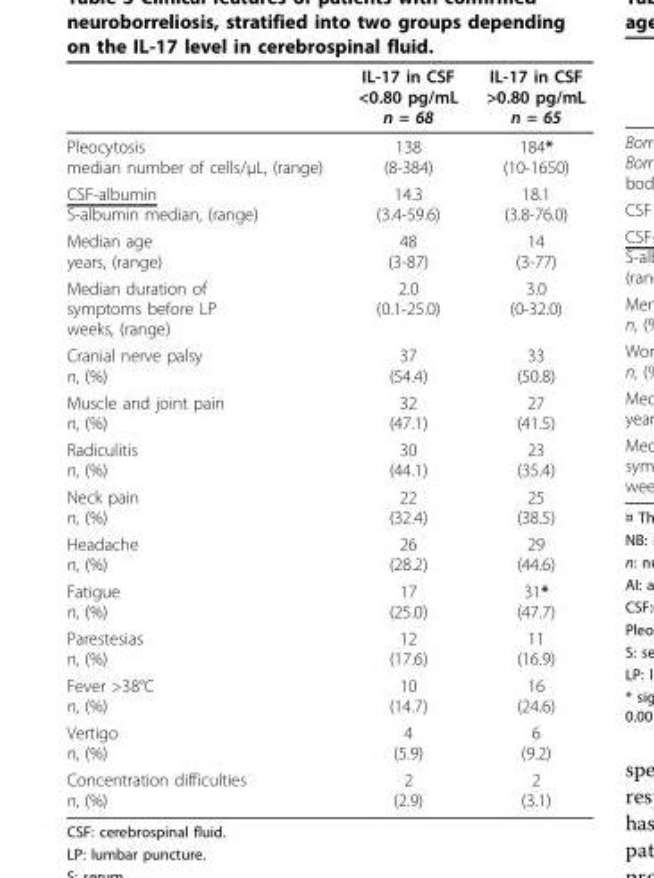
<table><thead><tr><td></td><td>IL-17 in CSF &lt;0.80 pg/mL n = 68</td><td>IL-17 in CSF &gt;0.80 pg/mL n = 65</td></tr></thead><tbody><tr><td>Pleocytosis median number of cells/μL, (range)</td><td>138 (8-384)</td><td>184* (10-1650)</td></tr><tr><td>CSF-albumin S-albumin median, (range)</td><td>14.3 (3.4-59.6)</td><td>18.1 (3.8-76.0)</td></tr><tr><td>Median age years, (range)</td><td>48 (3-87)</td><td>14 (3-77)</td></tr><tr><td>Median duration of symptoms before LP weeks, (range)</td><td>2.0 (0.1-25.0)</td><td>3.0 (0-32.0)</td></tr><tr><td>Cranial nerve palsy n, (%)</td><td>37 (54.4)</td><td>33 (50.8)</td></tr><tr><td>Muscle and joint pain n, (%)</td><td>32 (47.1)</td><td>27 (41.5)</td></tr><tr><td>Radiculitis n, (%)</td><td>30 (44.1)</td><td>23 (35.4)</td></tr><tr><td>Neck pain n, (%)</td><td>22 (32.4)</td><td>25 (38.5)</td></tr><tr><td>Headache n, (%)</td><td>26 (28.2)</td><td>29 (44.6)</td></tr><tr><td>Fatigue n, (%)</td><td>17 (25.0)</td><td>31* (47.7)</td></tr><tr><td>Parestesias n, (%)</td><td>12 (17.6)</td><td>11 (16.9)</td></tr><tr><td>Fever &gt;38°C n, (%)</td><td>10 (14.7)</td><td>16 (24.6)</td></tr><tr><td>Vertigo n, (%)</td><td>4 (5.9)</td><td>6 (9.2)</td></tr><tr><td>Concentration difficulties n, (%)</td><td>2 (2.9)</td><td>2 (3.1)</td></tr></tbody></table>